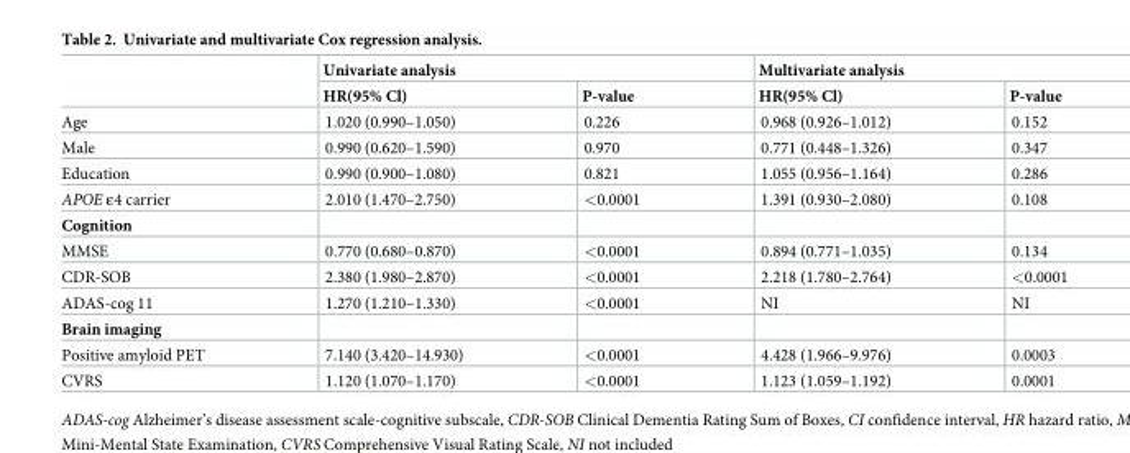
<table><thead><tr><td rowspan="2"></td><td colspan="2">Univariate analysis</td><td colspan="2">Multivariate analysis</td></tr><tr><td>HR(95% Cl)</td><td>P-value</td><td>HR(95% Cl)</td><td>P-value</td></tr></thead><tbody><tr><td>Age</td><td>1.020 (0.990–1.050)</td><td>0.226</td><td>0.968 (0.926–1.012)</td><td>0.152</td></tr><tr><td>Male</td><td>0.990 (0.620–1.590)</td><td>0.970</td><td>0.771 (0.448–1.326)</td><td>0.347</td></tr><tr><td>Education</td><td>0.990 (0.900–1.080)</td><td>0.821</td><td>1.055 (0.956–1.164)</td><td>0.286</td></tr><tr><td>APOE ε4 carrier</td><td>2.010 (1.470–2.750)</td><td>&lt;0.0001</td><td>1.391 (0.930–2.080)</td><td>0.108</td></tr><tr><td colspan="5">Cognition</td></tr><tr><td>MMSE</td><td>0.770 (0.680–0.870)</td><td>&lt;0.0001</td><td>0.894 (0.771–1.035)</td><td>0.134</td></tr><tr><td>CDR-SOB</td><td>2.380 (1.980–2.870)</td><td>&lt;0.0001</td><td>2.218 (1.780–2.764)</td><td>&lt;0.0001</td></tr><tr><td>ADAS-cog 11</td><td>1.270 (1.210–1.330)</td><td>&lt;0.0001</td><td>NI</td><td>NI</td></tr><tr><td colspan="5">Brain imaging</td></tr><tr><td>Positive amyloid PET</td><td>7.140 (3.420–14.930)</td><td>&lt;0.0001</td><td>4.428 (1.966–9.976)</td><td>0.0003</td></tr><tr><td>CVRS</td><td>1.120 (1.070–1.170)</td><td>&lt;0.0001</td><td>1.123 (1.059–1.192)</td><td>0.0001</td></tr></tbody></table>